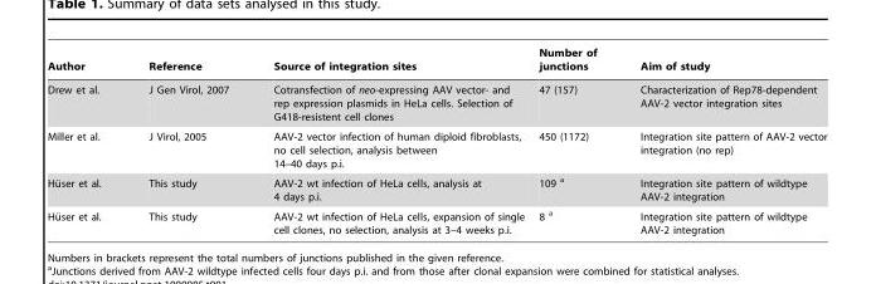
<table><thead><tr><td>Author</td><td>Reference</td><td>Source of integration sites</td><td>Number of junctions</td><td>Aim of study</td></tr></thead><tbody><tr><td>Drew et al.</td><td>J Gen Virol, 2007</td><td>Cotransfection of neo-expressing AAV vector- and rep expression plasmids in HeLa cells. Selection of G418-resistent cell clones</td><td>47 (157)</td><td>Characterization of Rep78-dependent AAV-2 vector integration sites</td></tr><tr><td>Miller et al.</td><td>J Virol, 2005</td><td>AAV-2 vector infection of human diploid fibroblasts, no cell selection, analysis between 14–40 days p.i.</td><td>450 (1172)</td><td>Integration site pattern of AAV-2 vector integration (no rep)</td></tr><tr><td>Hu¨ser et al.</td><td>This study</td><td>AAV-2 wt infection of HeLa cells, analysis at 4 days p.i.</td><td>109 a</td><td>Integration site pattern of wildtype AAV-2 integration</td></tr><tr><td>Hu¨ser et al.</td><td>This study</td><td>AAV-2 wt infection of HeLa cells, expansion of single cell clones, no selection, analysis at 3–4 weeks p.i.</td><td>8 a</td><td>Integration site pattern of wildtype AAV-2 integration</td></tr></tbody></table>